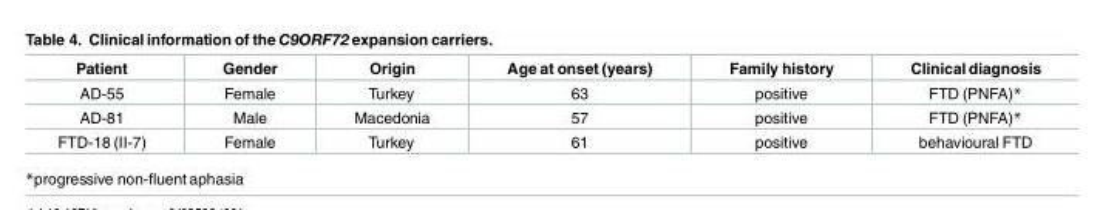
<table><thead><tr><td>Patient</td><td>Gender</td><td>Origin</td><td>Age at onset (years)</td><td>Family history</td><td>Clinical diagnosis</td></tr></thead><tbody><tr><td>AD-55</td><td>Female</td><td>Turkey</td><td>63</td><td>positive</td><td>FTD (PNFA)*</td></tr><tr><td>AD-81</td><td>Male</td><td>Macedonia</td><td>57</td><td>positive</td><td>FTD (PNFA)*</td></tr><tr><td>FTD-18 (II-7)</td><td>Female</td><td>Turkey</td><td>61</td><td>positive</td><td>behavioural FTD</td></tr></tbody></table>